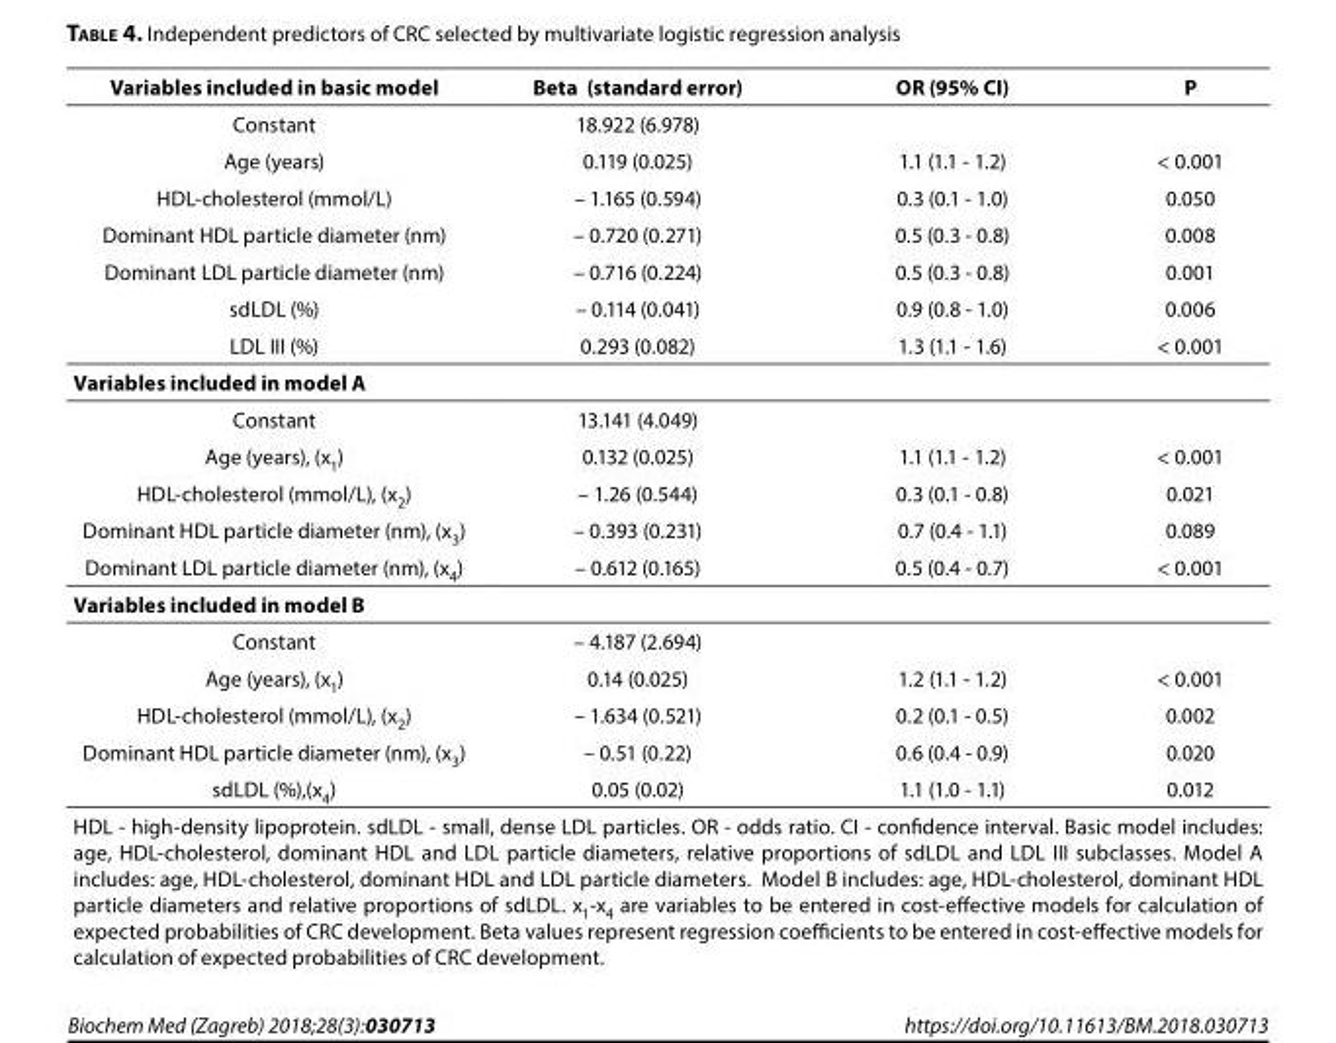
<table><thead><tr><td>Variables included in basic model</td><td>Beta (standard error)</td><td>OR (95% CI)</td><td>P</td></tr></thead><tbody><tr><td>Constant</td><td>18.922 (6.978)</td><td></td><td></td></tr><tr><td>Age (years)</td><td>0.119 (0.025)</td><td>1.1 (1.1 - 1.2)</td><td>&lt; 0.001</td></tr><tr><td>HDL-cholesterol (mmol/L)</td><td>– 1.165 (0.594)</td><td>0.3 (0.1 - 1.0)</td><td>0.050</td></tr><tr><td>Dominant HDL particle diameter (nm)</td><td>– 0.720 (0.271)</td><td>0.5 (0.3 - 0.8)</td><td>0.008</td></tr><tr><td>Dominant LDL particle diameter (nm)</td><td>– 0.716 (0.224)</td><td>0.5 (0.3 - 0.8)</td><td>0.001</td></tr><tr><td>sdLDL (%)</td><td>– 0.114 (0.041)</td><td>0.9 (0.8 - 1.0)</td><td>0.006</td></tr><tr><td>LDL III (%)</td><td>0.293 (0.082)</td><td>1.3 (1.1 - 1.6)</td><td>&lt; 0.001</td></tr><tr><td colspan="4">Variables included in model A</td></tr><tr><td>Constant</td><td>13.141 (4.049)</td><td></td><td></td></tr><tr><td>Age (years), (x<sub>1</sub>)</td><td>0.132 (0.025)</td><td>1.1 (1.1 - 1.2)</td><td>&lt; 0.001</td></tr><tr><td>HDL-cholesterol (mmol/L), (x<sub>2</sub>)</td><td>– 1.26 (0.544)</td><td>0.3 (0.1 - 0.8)</td><td>0.021</td></tr><tr><td>Dominant HDL particle diameter (nm), (x<sub>3</sub>)</td><td>– 0.393 (0.231)</td><td>0.7 (0.4 - 1.1)</td><td>0.089</td></tr><tr><td>Dominant LDL particle diameter (nm), (x<sub>4</sub>)</td><td>– 0.612 (0.165)</td><td>0.5 (0.4 - 0.7)</td><td>&lt; 0.001</td></tr><tr><td colspan="4">Variables included in model B</td></tr><tr><td>Constant</td><td>– 4.187 (2.694)</td><td></td><td></td></tr><tr><td>Age (years), (x<sub>1</sub>)</td><td>0.14 (0.025)</td><td>1.2 (1.1 - 1.2)</td><td>&lt; 0.001</td></tr><tr><td>HDL-cholesterol (mmol/L), (x<sub>2</sub>)</td><td>– 1.634 (0.521)</td><td>0.2 (0.1 - 0.5)</td><td>0.002</td></tr><tr><td>Dominant HDL particle diameter (nm), (x<sub>3</sub>)</td><td>– 0.51 (0.22)</td><td>0.6 (0.4 - 0.9)</td><td>0.020</td></tr><tr><td>sdLDL (%),(x<sub>4</sub>)</td><td>0.05 (0.02)</td><td>1.1 (1.0 - 1.1)</td><td>0.012</td></tr><tr><td colspan="4">HDL - high-density lipoprotein. sdLDL - small, dense LDL particles. OR - odds ratio. CI - confidence interval. Basic model includes: age, HDL-cholesterol, dominant HDL and LDL particle diameters, relative proportions of sdLDL and LDL III subclasses. Model A includes: age, HDL-cholesterol, dominant HDL and LDL particle diameters. Model B includes: age, HDL-cholesterol, dominant HDL particle diameters and relative proportions of sdLDL. x<sub>1</sub>-x<sub>4</sub> are variables to be entered in cost-effective models for calculation of expected probabilities of CRC development. Beta values represent regression coefficients to be entered in cost-effective models for calculation of expected probabilities of CRC development.</td></tr></tbody></table>